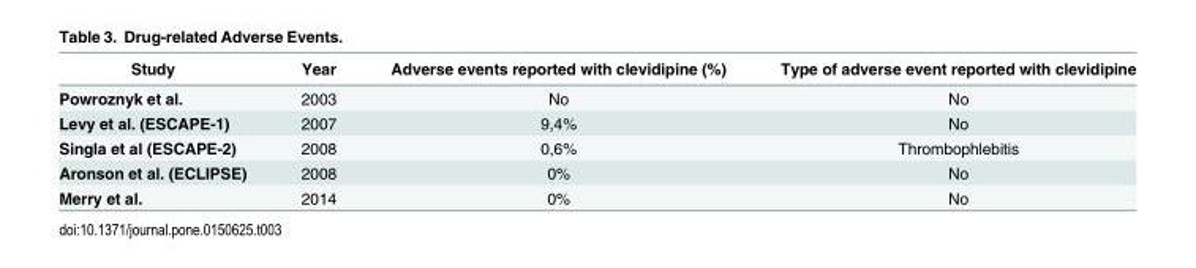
<table><thead><tr><td>Study</td><td>Year</td><td>Adverse events reported with clevidipine (%)</td><td>Type of adverse event reported with clevidipine</td></tr></thead><tbody><tr><td>Powroznyk et al.</td><td>2003</td><td>No</td><td>No</td></tr><tr><td>Levy et al. (ESCAPE-1)</td><td>2007</td><td>9,4%</td><td>No</td></tr><tr><td>Singla et al (ESCAPE-2)</td><td>2008</td><td>0,6%</td><td>Thrombophlebitis</td></tr><tr><td>Aronson et al. (ECLIPSE)</td><td>2008</td><td>0%</td><td>No</td></tr><tr><td>Merry et al.</td><td>2014</td><td>0%</td><td>No</td></tr></tbody></table>